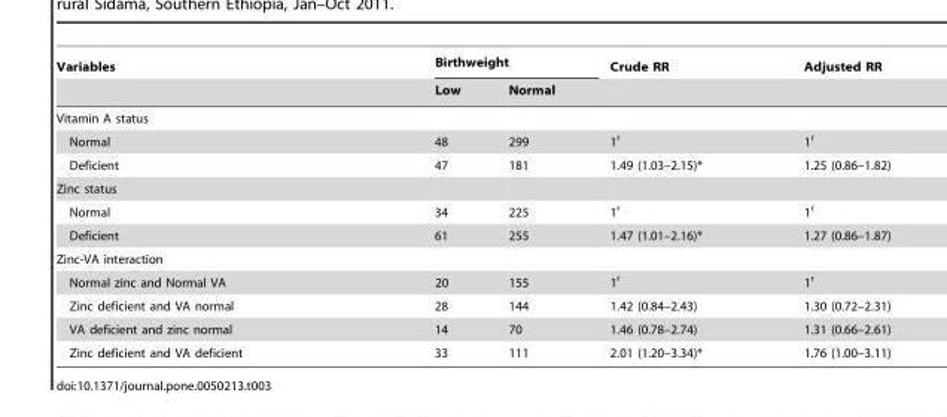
<table><thead><tr><td rowspan="2">Variables</td><td colspan="2">Birthweight</td><td rowspan="2">Crude RR</td><td rowspan="2">Adjusted RR</td></tr><tr><td>Low</td><td>Normal</td></tr></thead><tbody><tr><td colspan="5">Vitamin A status</td></tr><tr><td>Normal</td><td>48</td><td>299</td><td>1<sup>r</sup></td><td>1<sup>r</sup></td></tr><tr><td>Deficient</td><td>47</td><td>181</td><td>1.49 (1.03–2.15)*</td><td>1.25 (0.86–1.82)</td></tr><tr><td colspan="5">Zinc status</td></tr><tr><td>Normal</td><td>34</td><td>225</td><td>1<sup>r</sup></td><td>1<sup>r</sup></td></tr><tr><td>Deficient</td><td>61</td><td>255</td><td>1.47 (1.01–2.16)*</td><td>1.27 (0.86–1.87)</td></tr><tr><td colspan="5">Zinc-VA interaction</td></tr><tr><td>Normal zinc and Normal VA</td><td>20</td><td>155</td><td>1<sup>r</sup></td><td>1<sup>r</sup></td></tr><tr><td>Zinc deficient and VA normal</td><td>28</td><td>144</td><td>1.42 (0.84–2.43)</td><td>1.30 (0.72–2.31)</td></tr><tr><td>VA deficient and zinc normal</td><td>14</td><td>70</td><td>1.46 (0.78–2.74)</td><td>1.31 (0.66–2.61)</td></tr><tr><td>Zinc deficient and VA deficient</td><td>33</td><td>111</td><td>2.01 (1.20–3.34)*</td><td>1.76 (1.00–3.11)</td></tr></tbody></table>